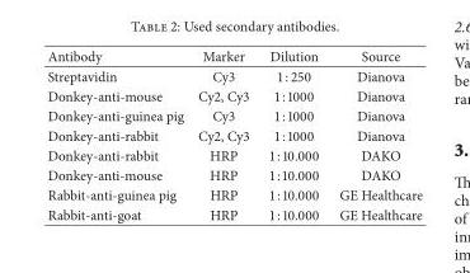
<table><thead><tr><td>Antibody</td><td>Marker</td><td>Dilution</td><td>Source</td></tr></thead><tbody><tr><td>Streptavidin</td><td>Cy3</td><td>1 : 250</td><td>Dianova</td></tr><tr><td>Donkey-anti-mouse</td><td>Cy2, Cy3</td><td>1 : 1000</td><td>Dianova</td></tr><tr><td>Donkey-anti-guinea pig</td><td>Cy3</td><td>1 : 1000</td><td>Dianova</td></tr><tr><td>Donkey-anti-rabbit</td><td>Cy2, Cy3</td><td>1 : 1000</td><td>Dianova</td></tr><tr><td>Donkey-anti-rabbit</td><td>HRP</td><td>1 : 10.000</td><td>DAKO</td></tr><tr><td>Donkey-anti-mouse</td><td>HRP</td><td>1 : 10.000</td><td>DAKO</td></tr><tr><td>Rabbit-anti-guinea pig</td><td>HRP</td><td>1 : 10.000</td><td>GE Healthcare</td></tr><tr><td>Rabbit-anti-goat</td><td>HRP</td><td>1 : 10.000</td><td>GE Healthcare</td></tr></tbody></table>